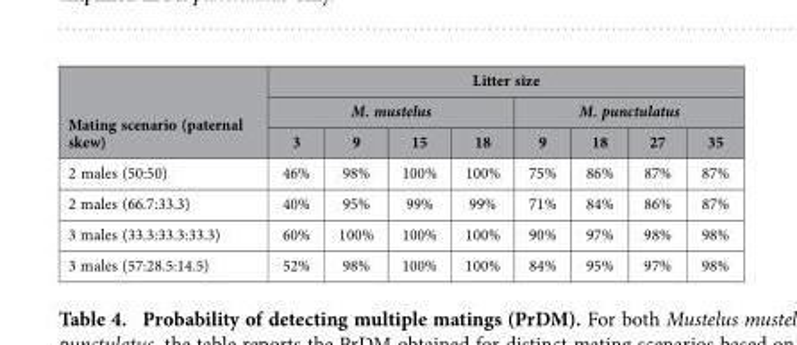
<table><thead><tr><td rowspan="3">Mating scenario (paternal skew)</td><td colspan="8">Litter size</td></tr><tr><td colspan="4">M. mustelus</td><td colspan="4">M. punctulatus</td></tr><tr><td>3</td><td>9</td><td>15</td><td>18</td><td>9</td><td>18</td><td>27</td><td>35</td></tr></thead><tbody><tr><td>2 males (50:50)</td><td>46%</td><td>98%</td><td>100%</td><td>100%</td><td>75%</td><td>86%</td><td>87%</td><td>87%</td></tr><tr><td>2 males (66.7:33.3)</td><td>40%</td><td>95%</td><td>99%</td><td>99%</td><td>71%</td><td>84%</td><td>86%</td><td>87%</td></tr><tr><td>3 males (33.3:33.3:33.3)</td><td>60%</td><td>100%</td><td>100%</td><td>100%</td><td>90%</td><td>97%</td><td>98%</td><td>98%</td></tr><tr><td>3 males (57:28.5:14.5)</td><td>52%</td><td>98%</td><td>100%</td><td>100%</td><td>84%</td><td>95%</td><td>97%</td><td>98%</td></tr></tbody></table>